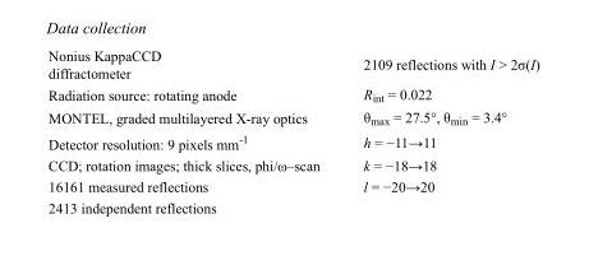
<table><tbody><tr><td>Nonius KappaCCD diffractometer</td><td>2109 reflections with I &gt; 2σ(I)</td></tr><tr><td>Radiation source: rotating anode</td><td>R<sub>int</sub> = 0.022</td></tr><tr><td>MONTEL, graded multilayered X-ray optics</td><td>θ<sub>max</sub> = 27.5°, θ<sub>min</sub> = 3.4°</td></tr><tr><td>Detector resolution: 9 pixels mm<sup>-1</sup></td><td>h = −11→11</td></tr><tr><td>CCD; rotation images; thick slices, phi/ω–scan</td><td>k = −18→18</td></tr><tr><td>16161 measured reflections</td><td>l = −20→20</td></tr><tr><td>2413 independent reflections</td><td></td></tr></tbody></table>